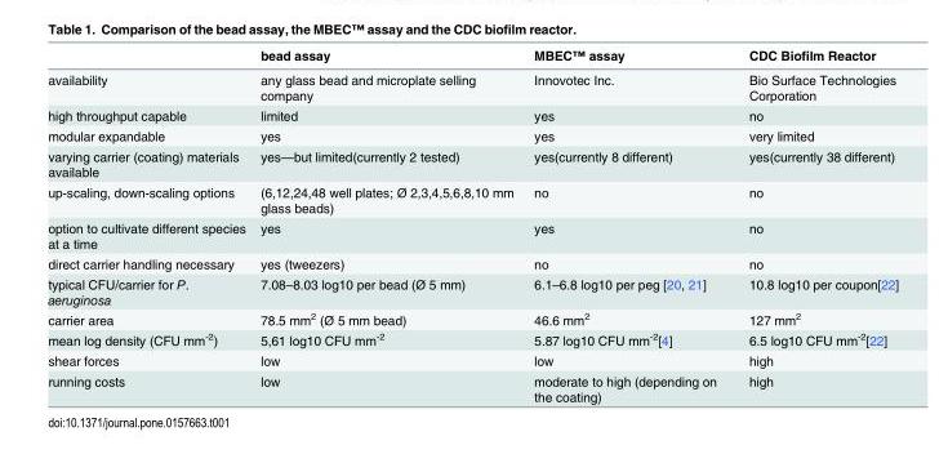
<table><thead><tr><td></td><td>bead assay</td><td>MBEC<sup>™</sup> assay</td><td>CDC Biofilm Reactor</td></tr></thead><tbody><tr><td>availability</td><td>any glass bead and microplate selling company</td><td>Innovotec Inc.</td><td>Bio Surface Technologies Corporation</td></tr><tr><td>high throughput capable</td><td>limited</td><td>yes</td><td>no</td></tr><tr><td>modular expandable</td><td>yes</td><td>yes</td><td>very limited</td></tr><tr><td>varying carrier (coating) materials available</td><td>yes—but limited(currently 2 tested)</td><td>yes(currently 8 different)</td><td>yes(currently 38 different)</td></tr><tr><td>up-scaling, down-scaling options</td><td>(6,12,24,48 well plates; Ø 2,3,4,5,6,8,10 mm glass beads)</td><td>no</td><td>no</td></tr><tr><td>option to cultivate different species at a time</td><td>yes</td><td>yes</td><td>no</td></tr><tr><td>direct carrier handling necessary</td><td>yes (tweezers)</td><td>no</td><td>no</td></tr><tr><td>typical CFU/carrier for P. aeruginosa</td><td>7.08–8.03 log10 per bead (Ø 5 mm)</td><td>6.1–6.8 log10 per peg [20, 21]</td><td>10.8 log10 per coupon[22]</td></tr><tr><td>carrier area</td><td>78.5 mm<sup>2</sup> (Ø 5 mm bead)</td><td>46.6 mm<sup>2</sup></td><td>127 mm<sup>2</sup></td></tr><tr><td>mean log density (CFU mm<sup>-2</sup>)</td><td>5,61 log10 CFU mm<sup>-2</sup></td><td>5.87 log10 CFU mm<sup>-2</sup>[4]</td><td>6.5 log10 CFU mm<sup>-2</sup>[22]</td></tr><tr><td>shear forces</td><td>low</td><td>low</td><td>high</td></tr><tr><td>running costs</td><td>low</td><td>moderate to high (depending on the coating)</td><td>high</td></tr></tbody></table>